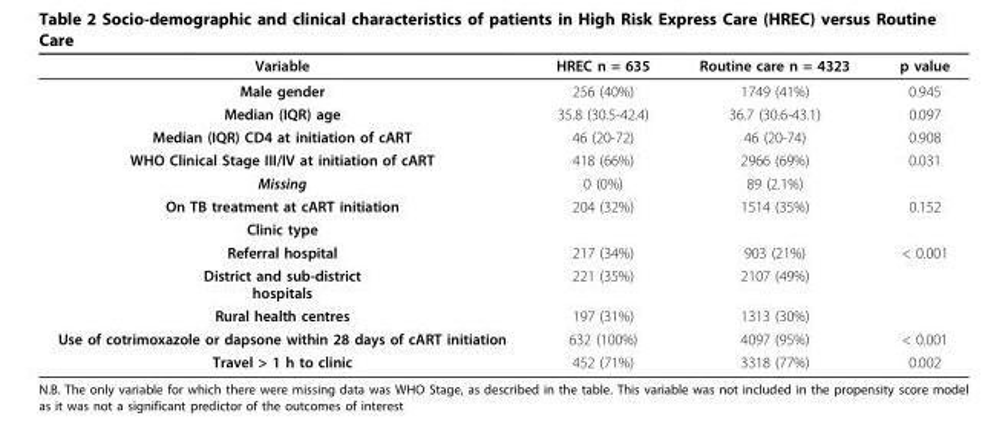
<table><thead><tr><td>Variable</td><td>HREC n = 635</td><td>Routine care n = 4323</td><td>p value</td></tr></thead><tbody><tr><td>Male gender</td><td>256 (40%)</td><td>1749 (41%)</td><td>0.945</td></tr><tr><td>Median (IQR) age</td><td>35.8 (30.5-42.4)</td><td>36.7 (30.6-43.1)</td><td>0.097</td></tr><tr><td>Median (IQR) CD4 at initiation of cART</td><td>46 (20-72)</td><td>46 (20-74)</td><td>0.908</td></tr><tr><td>WHO Clinical Stage III/IV at initiation of cART</td><td>418 (66%)</td><td>2966 (69%)</td><td>0.031</td></tr><tr><td>Missing</td><td>0 (0%)</td><td>89 (2.1%)</td><td></td></tr><tr><td>On TB treatment at cART initiation</td><td>204 (32%)</td><td>1514 (35%)</td><td>0.152</td></tr><tr><td colspan="4">Clinic type</td></tr><tr><td>Referral hospital</td><td>217 (34%)</td><td>903 (21%)</td><td>&lt; 0.001</td></tr><tr><td>District and sub-district hospitals</td><td>221 (35%)</td><td>2107 (49%)</td><td></td></tr><tr><td>Rural health centres</td><td>197 (31%)</td><td>1313 (30%)</td><td></td></tr><tr><td>Use of cotrimoxazole or dapsone within 28 days of cART initiation</td><td>632 (100%)</td><td>4097 (95%)</td><td>&lt; 0.001</td></tr><tr><td>Travel &gt; 1 h to clinic</td><td>452 (71%)</td><td>3318 (77%)</td><td>0.002</td></tr></tbody></table>